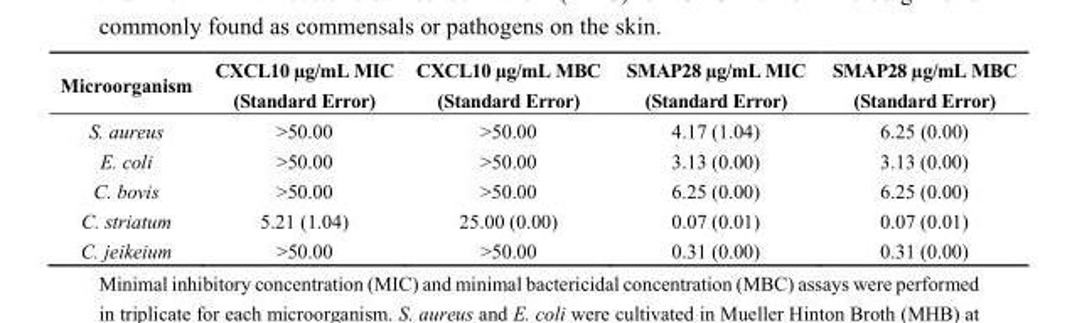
<table><thead><tr><td>Microorganism</td><td>CXCL10 µg/mL MIC (Standard Error)</td><td>CXCL10 µg/mL MBC (Standard Error)</td><td>SMAP28 µg/mL MIC (Standard Error)</td><td>SMAP28 µg/mL MBC (Standard Error)</td></tr></thead><tbody><tr><td>S. aureus</td><td>&gt;50.00</td><td>&gt;50.00</td><td>4.17 (1.04)</td><td>6.25 (0.00)</td></tr><tr><td>E. coli</td><td>&gt;50.00</td><td>&gt;50.00</td><td>3.13 (0.00)</td><td>3.13 (0.00)</td></tr><tr><td>C. bovis</td><td>&gt;50.00</td><td>&gt;50.00</td><td>6.25 (0.00)</td><td>6.25 (0.00)</td></tr><tr><td>C. striatum</td><td>5.21 (1.04)</td><td>25.00 (0.00)</td><td>0.07 (0.01)</td><td>0.07 (0.01)</td></tr><tr><td>C. jeikeium</td><td>&gt;50.00</td><td>&gt;50.00</td><td>0.31 (0.00)</td><td>0.31 (0.00)</td></tr></tbody></table>